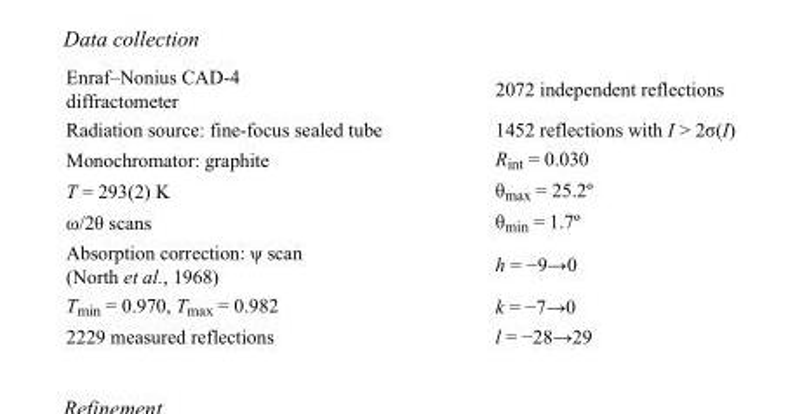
<table><tbody><tr><td>Enraf–Nonius CAD-4 diffractometer</td><td>2072 independent reflections</td></tr><tr><td>Radiation source: fine-focus sealed tube</td><td>1452 reflections with I &gt; 2σ(I)</td></tr><tr><td>Monochromator: graphite</td><td>R<sub>int</sub> = 0.030</td></tr><tr><td>T = 293(2) K</td><td>θ<sub>max</sub> = 25.2º</td></tr><tr><td>ω/2θ scans</td><td>θ<sub>min</sub> = 1.7º</td></tr><tr><td>Absorption correction: ψ scan (North et al., 1968)</td><td>h = −9→0</td></tr><tr><td>T<sub>min</sub> = 0.970, T<sub>max</sub> = 0.982</td><td>k = −7→0</td></tr><tr><td>2229 measured reflections</td><td>l = −28→29</td></tr></tbody></table>